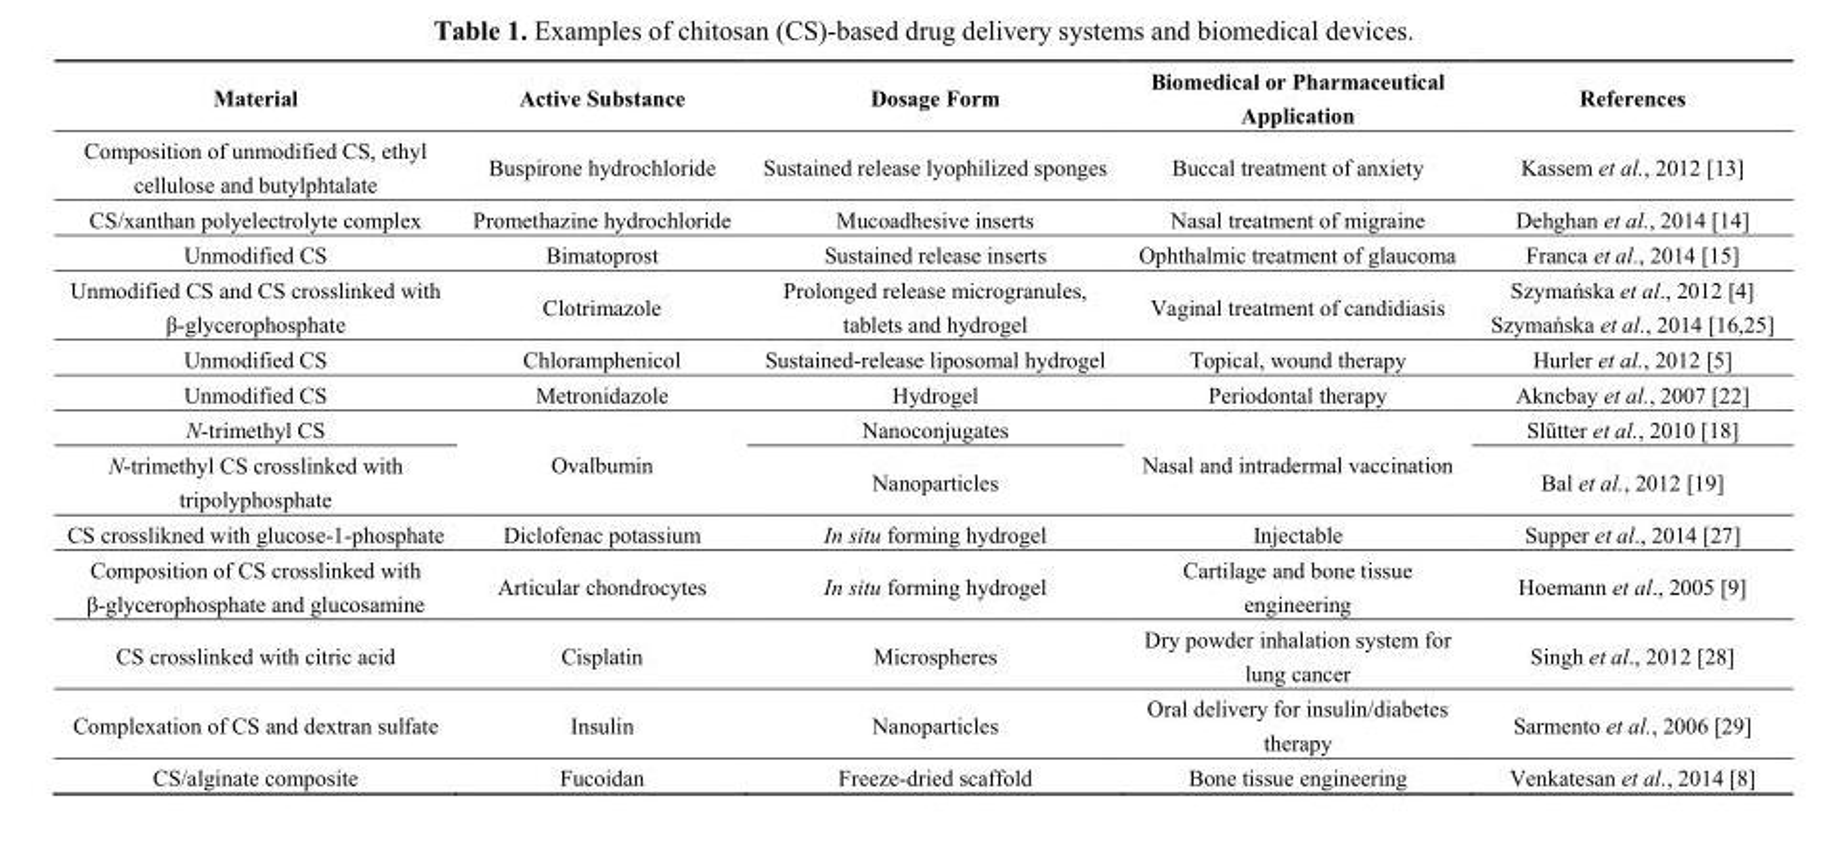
<table><thead><tr><td>Material</td><td>Active Substance</td><td>Dosage Form</td><td>Biomedical or Pharmaceutical Application</td><td>References</td></tr></thead><tbody><tr><td>Composition of unmodified CS, ethyl cellulose and butylphtalate</td><td>Buspirone hydrochloride</td><td>Sustained release lyophilized sponges</td><td>Buccal treatment of anxiety</td><td>Kassem et al., 2012 [13]</td></tr><tr><td>CS/xanthan polyelectrolyte complex</td><td>Promethazine hydrochloride</td><td>Mucoadhesive inserts</td><td>Nasal treatment of migraine</td><td>Dehghan et al., 2014 [14]</td></tr><tr><td>Unmodified CS</td><td>Bimatoprost</td><td>Sustained release inserts</td><td>Ophthalmic treatment of glaucoma</td><td>Franca et al., 2014 [15]</td></tr><tr><td>Unmodified CS and CS crosslinked with β-glycerophosphate</td><td>Clotrimazole</td><td>Prolonged release microgranules, tablets and hydrogel</td><td>Vaginal treatment of candidiasis</td><td>Szymańska et al., 2012 [4] Szymańska et al., 2014 [16,25]</td></tr><tr><td>Unmodified CS</td><td>Chloramphenicol</td><td>Sustained-release liposomal hydrogel</td><td>Topical, wound therapy</td><td>Hurler et al., 2012 [5]</td></tr><tr><td>Unmodified CS</td><td>Metronidazole</td><td>Hydrogel</td><td>Periodontal therapy</td><td>Akncbay et al., 2007 [22]</td></tr><tr><td>N-trimethyl CS</td><td rowspan="2">Ovalbumin</td><td>Nanoconjugates</td><td rowspan="2">Nasal and intradermal vaccination</td><td>Slűtter et al., 2010 [18]</td></tr><tr><td>N-trimethyl CS crosslinked with tripolyphosphate</td><td>Nanoparticles</td><td>Bal et al., 2012 [19]</td></tr><tr><td>CS crosslikned with glucose-1-phosphate</td><td>Diclofenac potassium</td><td>In situ forming hydrogel</td><td>Injectable</td><td>Supper et al., 2014 [27]</td></tr><tr><td>Composition of CS crosslinked with β-glycerophosphate and glucosamine</td><td>Articular chondrocytes</td><td>In situ forming hydrogel</td><td>Cartilage and bone tissue engineering</td><td>Hoemann et al., 2005 [9]</td></tr><tr><td>CS crosslinked with citric acid</td><td>Cisplatin</td><td>Microspheres</td><td>Dry powder inhalation system for lung cancer</td><td>Singh et al., 2012 [28]</td></tr><tr><td>Complexation of CS and dextran sulfate</td><td>Insulin</td><td>Nanoparticles</td><td>Oral delivery for insulin/diabetes therapy</td><td>Sarmento et al., 2006 [29]</td></tr><tr><td>CS/alginate composite</td><td>Fucoidan</td><td>Freeze-dried scaffold</td><td>Bone tissue engineering</td><td>Venkatesan et al., 2014 [8]</td></tr></tbody></table>